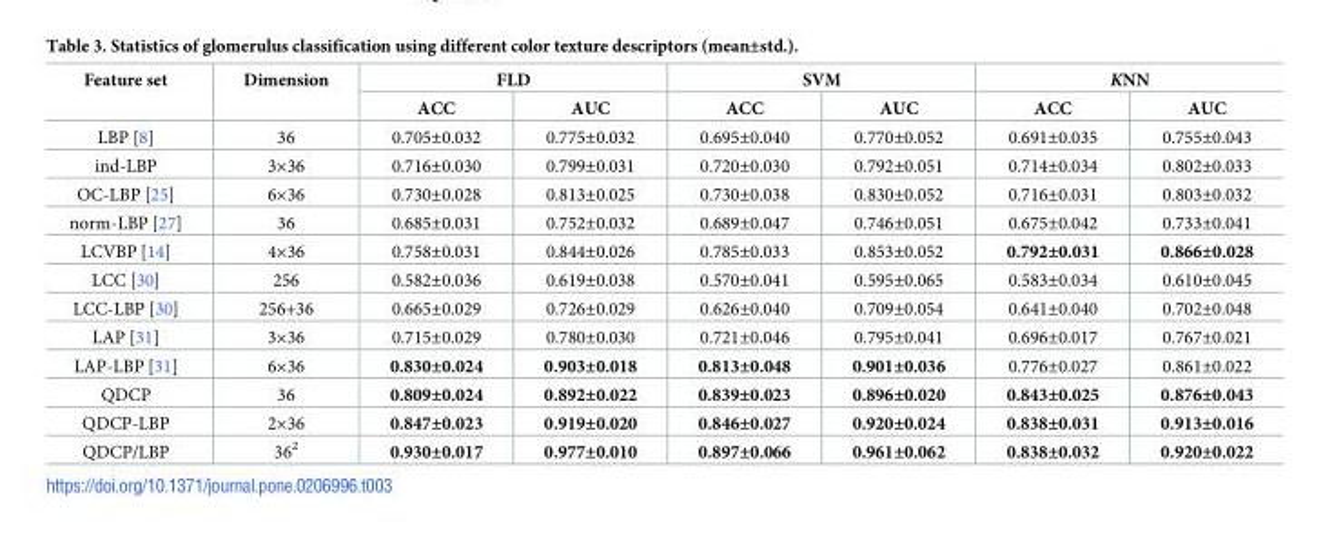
<table><thead><tr><td rowspan="2">Feature set</td><td rowspan="2">Dimension</td><td colspan="2">FLD</td><td colspan="2">SVM</td><td colspan="2">KNN</td></tr><tr><td>ACC</td><td>AUC</td><td>ACC</td><td>AUC</td><td>ACC</td><td>AUC</td></tr></thead><tbody><tr><td>LBP [8]</td><td>36</td><td>0.705±0.032</td><td>0.775±0.032</td><td>0.695±0.040</td><td>0.770±0.052</td><td>0.691±0.035</td><td>0.755±0.043</td></tr><tr><td>ind-LBP</td><td>3×36</td><td>0.716±0.030</td><td>0.799±0.031</td><td>0.720±0.030</td><td>0.792±0.051</td><td>0.714±0.034</td><td>0.802±0.033</td></tr><tr><td>OC-LBP [25]</td><td>6×36</td><td>0.730±0.028</td><td>0.813±0.025</td><td>0.730±0.038</td><td>0.830±0.052</td><td>0.716±0.031</td><td>0.803±0.032</td></tr><tr><td>norm-LBP [27]</td><td>36</td><td>0.685±0.031</td><td>0.752±0.032</td><td>0.689±0.047</td><td>0.746±0.051</td><td>0.675±0.042</td><td>0.733±0.041</td></tr><tr><td>LCVBP [14]</td><td>4×36</td><td>0.758±0.031</td><td>0.844±0.026</td><td>0.785±0.033</td><td>0.853±0.052</td><td>0.792±0.031</td><td>0.866±0.028</td></tr><tr><td>LCC [30]</td><td>256</td><td>0.582±0.036</td><td>0.619±0.038</td><td>0.570±0.041</td><td>0.595±0.065</td><td>0.583±0.034</td><td>0.610±0.045</td></tr><tr><td>LCC-LBP [30]</td><td>256+36</td><td>0.665±0.029</td><td>0.726±0.029</td><td>0.626±0.040</td><td>0.709±0.054</td><td>0.641±0.040</td><td>0.702±0.048</td></tr><tr><td>LAP [31]</td><td>3×36</td><td>0.715±0.029</td><td>0.780±0.030</td><td>0.721±0.046</td><td>0.795±0.041</td><td>0.696±0.017</td><td>0.767±0.021</td></tr><tr><td>LAP-LBP [31]</td><td>6×36</td><td>0.830±0.024</td><td>0.903±0.018</td><td>0.813±0.048</td><td>0.901±0.036</td><td>0.776±0.027</td><td>0.861±0.022</td></tr><tr><td>QDCP</td><td>36</td><td>0.809±0.024</td><td>0.892±0.022</td><td>0.839±0.023</td><td>0.896±0.020</td><td>0.843±0.025</td><td>0.876±0.043</td></tr><tr><td>QDCP-LBP</td><td>2×36</td><td>0.847±0.023</td><td>0.919±0.020</td><td>0.846±0.027</td><td>0.920±0.024</td><td>0.838±0.031</td><td>0.913±0.016</td></tr><tr><td>QDCP/LBP</td><td>36<sup>2</sup></td><td>0.930±0.017</td><td>0.977±0.010</td><td>0.897±0.066</td><td>0.961±0.062</td><td>0.838±0.032</td><td>0.920±0.022</td></tr></tbody></table>